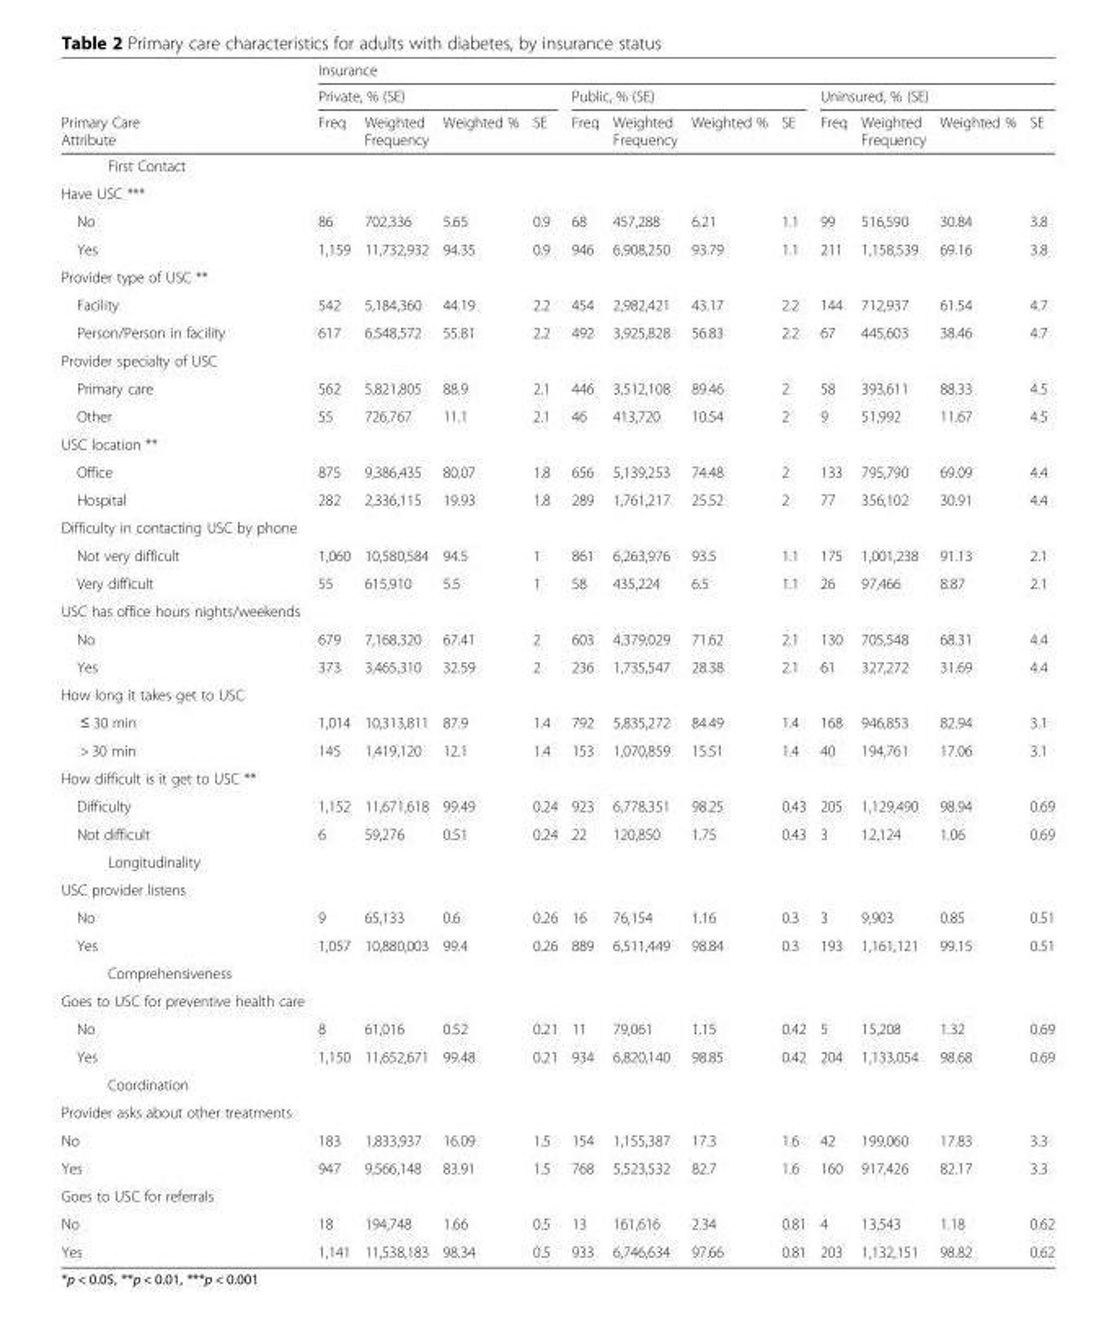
<table><thead><tr><td rowspan="3">Primary Care Attribute</td><td colspan="12">Insurance</td></tr><tr><td colspan="4">Private, % (SE)</td><td colspan="4">Public, % (SE)</td><td colspan="4">Uninsured, % (SE)</td></tr><tr><td>Freq</td><td>Weighted Frequency</td><td>Weighted %</td><td>SE</td><td>Freq</td><td>Weighted Frequency</td><td>Weighted %</td><td>SE</td><td>Freq</td><td>Weighted Frequency</td><td>Weighted %</td><td>SE</td></tr></thead><tbody><tr><td colspan="13">First Contact</td></tr><tr><td colspan="13">Have USC ***</td></tr><tr><td>No</td><td>86</td><td>702,336</td><td>5.65</td><td>0.9</td><td>68</td><td>457,288</td><td>6.21</td><td>1.1</td><td>99</td><td>516,590</td><td>30.84</td><td>3.8</td></tr><tr><td>Yes</td><td>1,159</td><td>11,732,932</td><td>94.35</td><td>0.9</td><td>946</td><td>6,908,250</td><td>93.79</td><td>1.1</td><td>211</td><td>1,158,539</td><td>69.16</td><td>3.8</td></tr><tr><td colspan="13">Provider type of USC **</td></tr><tr><td>Facility</td><td>542</td><td>5,184,360</td><td>44.19</td><td>2.2</td><td>454</td><td>2,982,421</td><td>43.17</td><td>2.2</td><td>144</td><td>712,937</td><td>61.54</td><td>4.7</td></tr><tr><td>Person/Person in facility</td><td>617</td><td>6,548,572</td><td>55.81</td><td>2.2</td><td>492</td><td>3,925,828</td><td>56.83</td><td>2.2</td><td>67</td><td>445,603</td><td>38.46</td><td>4.7</td></tr><tr><td colspan="13">Provider specialty of USC</td></tr><tr><td>Primary care</td><td>562</td><td>5,821,805</td><td>88.9</td><td>2.1</td><td>446</td><td>3,512,108</td><td>89.46</td><td>2</td><td>58</td><td>393,611</td><td>88.33</td><td>4.5</td></tr><tr><td>Other</td><td>55</td><td>726,767</td><td>11.1</td><td>2.1</td><td>46</td><td>413,720</td><td>10.54</td><td>2</td><td>9</td><td>51,992</td><td>11.67</td><td>4.5</td></tr><tr><td colspan="13">USC location **</td></tr><tr><td>Office</td><td>875</td><td>9,386,435</td><td>80.07</td><td>1.8</td><td>656</td><td>5,139,253</td><td>74.48</td><td>2</td><td>133</td><td>795,790</td><td>69.09</td><td>4.4</td></tr><tr><td>Hospital</td><td>282</td><td>2,336,115</td><td>19.93</td><td>1.8</td><td>289</td><td>1,761,217</td><td>25.52</td><td>2</td><td>77</td><td>356,102</td><td>30.91</td><td>4.4</td></tr><tr><td colspan="13">Difficulty in contacting USC by phone</td></tr><tr><td>Not very difficult</td><td>1,060</td><td>10,580,584</td><td>94.5</td><td>1</td><td>861</td><td>6,263,976</td><td>93.5</td><td>1.1</td><td>175</td><td>1,001,238</td><td>91.13</td><td>2.1</td></tr><tr><td>Very difficult</td><td>55</td><td>615,910</td><td>5.5</td><td>1</td><td>58</td><td>435,224</td><td>6.5</td><td>1.1</td><td>26</td><td>97,466</td><td>8.87</td><td>2.1</td></tr><tr><td colspan="13">USC has office hours nights/weekends</td></tr><tr><td>No</td><td>679</td><td>7,168,320</td><td>67.41</td><td>2</td><td>603</td><td>4,379,029</td><td>71.62</td><td>2.1</td><td>130</td><td>705,548</td><td>68.31</td><td>4.4</td></tr><tr><td>Yes</td><td>373</td><td>3,465,310</td><td>32.59</td><td>2</td><td>236</td><td>1,735,547</td><td>28.38</td><td>2.1</td><td>61</td><td>327,272</td><td>31.69</td><td>4.4</td></tr><tr><td colspan="13">How long it takes get to USC</td></tr><tr><td>≤ 30 min</td><td>1,014</td><td>10,313,811</td><td>87.9</td><td>1.4</td><td>792</td><td>5,835,272</td><td>84.49</td><td>1.4</td><td>168</td><td>946,853</td><td>82.94</td><td>3.1</td></tr><tr><td>&gt; 30 min</td><td>145</td><td>1,419,120</td><td>12.1</td><td>1.4</td><td>153</td><td>1,070,859</td><td>15.51</td><td>1.4</td><td>40</td><td>194,761</td><td>17.06</td><td>3.1</td></tr><tr><td colspan="13">How difficult is it get to USC **</td></tr><tr><td>Difficulty</td><td>1,152</td><td>11,671,618</td><td>99.49</td><td>0.24</td><td>923</td><td>6,778,351</td><td>98.25</td><td>0.43</td><td>205</td><td>1,129,490</td><td>98.94</td><td>0.69</td></tr><tr><td>Not difficult</td><td>6</td><td>59,276</td><td>0.51</td><td>0.24</td><td>22</td><td>120,850</td><td>1.75</td><td>0.43</td><td>3</td><td>12,124</td><td>1.06</td><td>0.69</td></tr><tr><td colspan="13">Longitudinality</td></tr><tr><td colspan="13">USC provider listens</td></tr><tr><td>No</td><td>9</td><td>65,133</td><td>0.6</td><td>0.26</td><td>16</td><td>76,154</td><td>1.16</td><td>0.3</td><td>3</td><td>9,903</td><td>0.85</td><td>0.51</td></tr><tr><td>Yes</td><td>1,057</td><td>10,880,003</td><td>99.4</td><td>0.26</td><td>889</td><td>6,511,449</td><td>98.84</td><td>0.3</td><td>193</td><td>1,161,121</td><td>99.15</td><td>0.51</td></tr><tr><td colspan="13">Comprehensiveness</td></tr><tr><td colspan="13">Goes to USC for preventive health care</td></tr><tr><td>No</td><td>8</td><td>61,016</td><td>0.52</td><td>0.21</td><td>11</td><td>79,061</td><td>1.15</td><td>0.42</td><td>5</td><td>15,208</td><td>1.32</td><td>0.69</td></tr><tr><td>Yes</td><td>1,150</td><td>11,652,671</td><td>99.48</td><td>0.21</td><td>934</td><td>6,820,140</td><td>98.85</td><td>0.42</td><td>204</td><td>1,133,054</td><td>98.68</td><td>0.69</td></tr><tr><td colspan="13">Coordination</td></tr><tr><td colspan="13">Provider asks about other treatments</td></tr><tr><td>No</td><td>183</td><td>1,833,937</td><td>16.09</td><td>1.5</td><td>154</td><td>1,155,387</td><td>17.3</td><td>1.6</td><td>42</td><td>199,060</td><td>17.83</td><td>3.3</td></tr><tr><td>Yes</td><td>947</td><td>9,566,148</td><td>83.91</td><td>1.5</td><td>768</td><td>5,523,532</td><td>82.7</td><td>1.6</td><td>160</td><td>917,426</td><td>82.17</td><td>3.3</td></tr><tr><td colspan="13">Goes to USC for referrals</td></tr><tr><td>No</td><td>18</td><td>194,748</td><td>1.66</td><td>0.5</td><td>13</td><td>161,616</td><td>2.34</td><td>0.81</td><td>4</td><td>13,543</td><td>1.18</td><td>0.62</td></tr><tr><td>Yes</td><td>1,141</td><td>11,538,183</td><td>98.34</td><td>0.5</td><td>933</td><td>6,746,634</td><td>97.66</td><td>0.81</td><td>203</td><td>1,132,151</td><td>98.82</td><td>0.62</td></tr></tbody></table>